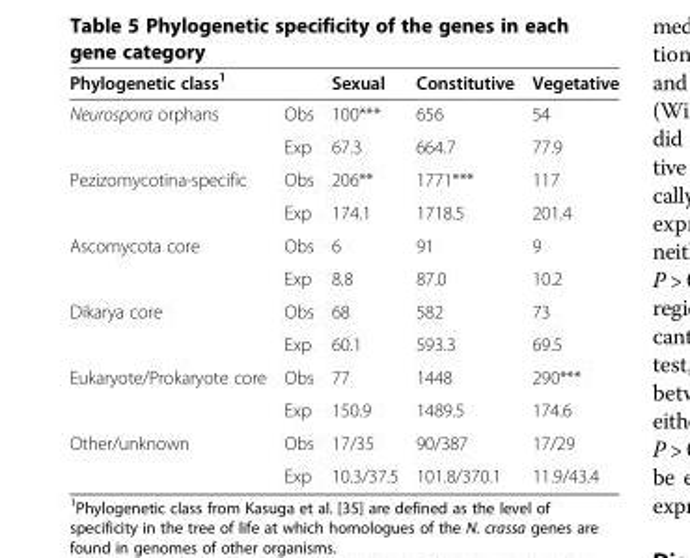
<table><thead><tr><td>Phylogenetic class<sup>1</sup></td><td></td><td>Sexual</td><td>Constitutive</td><td>Vegetative</td></tr></thead><tbody><tr><td rowspan="2">Neurospora orphans</td><td>Obs</td><td>100***</td><td>656</td><td>54</td></tr><tr><td>Exp</td><td>67.3</td><td>664.7</td><td>77.9</td></tr><tr><td rowspan="2">Pezizomycotina-specific</td><td>Obs</td><td>206**</td><td>1771***</td><td>117</td></tr><tr><td>Exp</td><td>174.1</td><td>1718.5</td><td>201.4</td></tr><tr><td rowspan="2">Ascomycota core</td><td>Obs</td><td>6</td><td>91</td><td>9</td></tr><tr><td>Exp</td><td>8.8</td><td>87.0</td><td>10.2</td></tr><tr><td rowspan="2">Dikarya core</td><td>Obs</td><td>68</td><td>582</td><td>73</td></tr><tr><td>Exp</td><td>60.1</td><td>593.3</td><td>69.5</td></tr><tr><td rowspan="2">Eukaryote/Prokaryote core</td><td>Obs</td><td>77</td><td>1448</td><td>290***</td></tr><tr><td>Exp</td><td>150.9</td><td>1489.5</td><td>174.6</td></tr><tr><td rowspan="2">Other/unknown</td><td>Obs</td><td>17/35</td><td>90/387</td><td>17/29</td></tr><tr><td>Exp</td><td>10.3/37.5</td><td>101.8/370.1</td><td>11.9/43.4</td></tr></tbody></table>